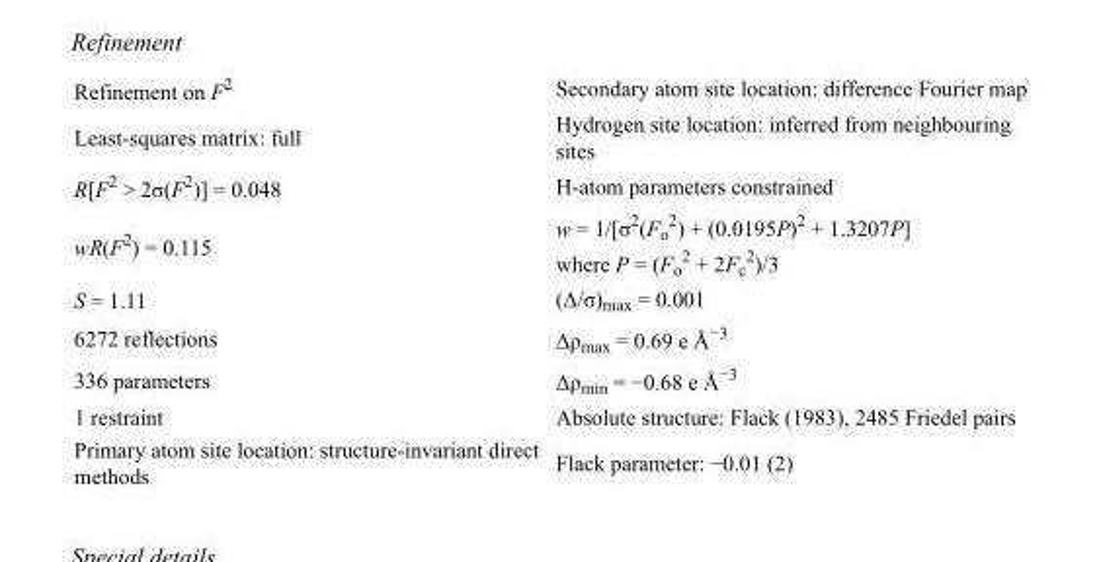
<table><tbody><tr><td>Refinement on F<sup>2</sup></td><td>Secondary atom site location: difference Fourier map</td></tr><tr><td>Least-squares matrix: full</td><td>Hydrogen site location: inferred from neighbouring sites</td></tr><tr><td>R[F<sup>2</sup> &gt; 2σ(F<sup>2</sup>)] = 0.048</td><td>H-atom parameters constrained</td></tr><tr><td>wR(F<sup>2</sup>) = 0.115</td><td>w = 1/[σ<sup>2</sup>(F<sub>o</sub> <sup>2</sup>) + (0.0195P)<sup>2</sup> + 1.3207P] where P = (F<sub>o</sub> <sup>2</sup> + 2F<sub>c</sub> <sup>2</sup>)/3</td></tr><tr><td>S = 1.11</td><td>(Δ/σ)<sub>max</sub> = 0.001</td></tr><tr><td>6272 reflections</td><td>Δρ<sub>max</sub> = 0.69 e Å<sup>−3</sup></td></tr><tr><td>336 parameters</td><td>Δρmin = −0.68 e Å−3</td></tr><tr><td>1 restraint</td><td>Absolute structure: Flack (1983), 2485 Friedel pairs</td></tr><tr><td>Primary atom site location: structure-invariant direct methods</td><td>Flack parameter: −0.01 (2)</td></tr></tbody></table>